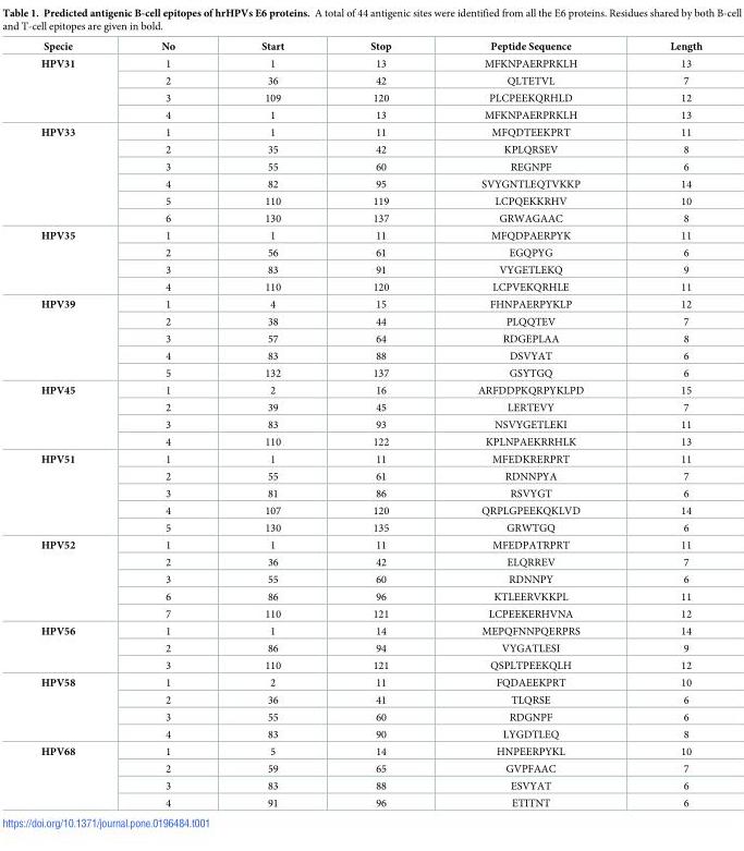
<table><thead><tr><td>Specie</td><td>No</td><td>Start</td><td>Stop</td><td>Peptide Sequence</td><td>Length</td></tr></thead><tbody><tr><td rowspan="4">HPV31</td><td>1</td><td>1</td><td>13</td><td>MFKNPAERPRKLH</td><td>13</td></tr><tr><td>2</td><td>36</td><td>42</td><td>QLTETVL</td><td>7</td></tr><tr><td>3</td><td>109</td><td>120</td><td>PLCPEEKQRHLD</td><td>12</td></tr><tr><td>4</td><td>1</td><td>13</td><td>MFKNPAERPRKLH</td><td>13</td></tr><tr><td rowspan="6">HPV33</td><td>1</td><td>1</td><td>11</td><td>MFQDTEEKPRT</td><td>11</td></tr><tr><td>2</td><td>35</td><td>42</td><td>KPLQRSEV</td><td>8</td></tr><tr><td>3</td><td>55</td><td>60</td><td>REGNPF</td><td>6</td></tr><tr><td>4</td><td>82</td><td>95</td><td>SVYGNTLEQTVKKP</td><td>14</td></tr><tr><td>5</td><td>110</td><td>119</td><td>LCPQEKKRHV</td><td>10</td></tr><tr><td>6</td><td>130</td><td>137</td><td>GRWAGAAC</td><td>8</td></tr><tr><td rowspan="4">HPV35</td><td>1</td><td>1</td><td>11</td><td>MFQDPAERPYK</td><td>11</td></tr><tr><td>2</td><td>56</td><td>61</td><td>EGQPYG</td><td>6</td></tr><tr><td>3</td><td>83</td><td>91</td><td>VYGETLEKQ</td><td>9</td></tr><tr><td>4</td><td>110</td><td>120</td><td>LCPVEKQRHLE</td><td>11</td></tr><tr><td rowspan="5">HPV39</td><td>1</td><td>4</td><td>15</td><td>FHNPAERPYKLP</td><td>12</td></tr><tr><td>2</td><td>38</td><td>44</td><td>PLQQTEV</td><td>7</td></tr><tr><td>3</td><td>57</td><td>64</td><td>RDGEPLAA</td><td>8</td></tr><tr><td>4</td><td>83</td><td>88</td><td>DSVYAT</td><td>6</td></tr><tr><td>5</td><td>132</td><td>137</td><td>GSYTGQ</td><td>6</td></tr><tr><td rowspan="4">HPV45</td><td>1</td><td>2</td><td>16</td><td>ARFDDPKQRPYKLPD</td><td>15</td></tr><tr><td>2</td><td>39</td><td>45</td><td>LERTEVY</td><td>7</td></tr><tr><td>3</td><td>83</td><td>93</td><td>NSVYGETLEKI</td><td>11</td></tr><tr><td>4</td><td>110</td><td>122</td><td>KPLNPAEKRRHLK</td><td>13</td></tr><tr><td rowspan="5">HPV51</td><td>1</td><td>1</td><td>11</td><td>MFEDKRERPRT</td><td>11</td></tr><tr><td>2</td><td>55</td><td>61</td><td>RDNNPYA</td><td>7</td></tr><tr><td>3</td><td>81</td><td>86</td><td>RSVYGT</td><td>6</td></tr><tr><td>4</td><td>107</td><td>120</td><td>QRPLGPEEKQKLVD</td><td>14</td></tr><tr><td>5</td><td>130</td><td>135</td><td>GRWTGQ</td><td>6</td></tr><tr><td rowspan="5">HPV52</td><td>1</td><td>1</td><td>11</td><td>MFEDPATRPRT</td><td>11</td></tr><tr><td>2</td><td>36</td><td>42</td><td>ELQRREV</td><td>7</td></tr><tr><td>3</td><td>55</td><td>60</td><td>RDNNPY</td><td>6</td></tr><tr><td>6</td><td>86</td><td>96</td><td>KTLEERVKKPL</td><td>11</td></tr><tr><td>7</td><td>110</td><td>121</td><td>LCPEEKERHVNA</td><td>12</td></tr><tr><td rowspan="3">HPV56</td><td>1</td><td>1</td><td>14</td><td>MEPQFNNPQERPRS</td><td>14</td></tr><tr><td>2</td><td>86</td><td>94</td><td>VYGATLESI</td><td>9</td></tr><tr><td>3</td><td>110</td><td>121</td><td>QSPLTPEEKQLH</td><td>12</td></tr><tr><td rowspan="4">HPV58</td><td>1</td><td>2</td><td>11</td><td>FQDAEEKPRT</td><td>10</td></tr><tr><td>2</td><td>36</td><td>41</td><td>TLQRSE</td><td>6</td></tr><tr><td>3</td><td>55</td><td>60</td><td>RDGNPF</td><td>6</td></tr><tr><td>4</td><td>83</td><td>90</td><td>LYGDTLEQ</td><td>8</td></tr><tr><td rowspan="4">HPV68</td><td>1</td><td>5</td><td>14</td><td>HNPEERPYKL</td><td>10</td></tr><tr><td>2</td><td>59</td><td>65</td><td>GVPFAAC</td><td>7</td></tr><tr><td>3</td><td>83</td><td>88</td><td>ESVYAT</td><td>6</td></tr><tr><td>4</td><td>91</td><td>96</td><td>ETITNT</td><td>6</td></tr></tbody></table>